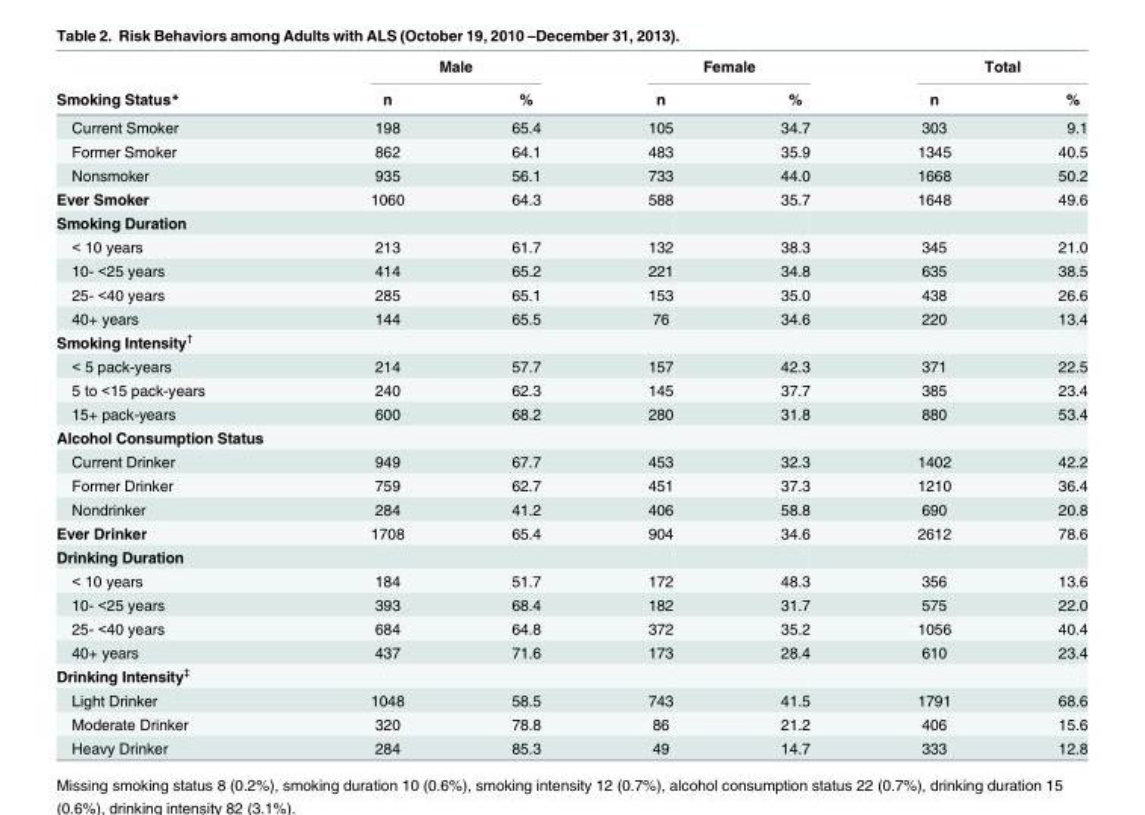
<table><thead><tr><td rowspan="2">Smoking Status*</td><td colspan="2">Male</td><td colspan="2">Female</td><td colspan="2">Total</td></tr><tr><td>n</td><td>%</td><td>n</td><td>%</td><td>n</td><td>%</td></tr></thead><tbody><tr><td>Current Smoker</td><td>198</td><td>65.4</td><td>105</td><td>34.7</td><td>303</td><td>9.1</td></tr><tr><td>Former Smoker</td><td>862</td><td>64.1</td><td>483</td><td>35.9</td><td>1345</td><td>40.5</td></tr><tr><td>Nonsmoker</td><td>935</td><td>56.1</td><td>733</td><td>44.0</td><td>1668</td><td>50.2</td></tr><tr><td>Ever Smoker</td><td>1060</td><td>64.3</td><td>588</td><td>35.7</td><td>1648</td><td>49.6</td></tr><tr><td colspan="7">Smoking Duration</td></tr><tr><td>&lt; 10 years</td><td>213</td><td>61.7</td><td>132</td><td>38.3</td><td>345</td><td>21.0</td></tr><tr><td>10- &lt;25 years</td><td>414</td><td>65.2</td><td>221</td><td>34.8</td><td>635</td><td>38.5</td></tr><tr><td>25- &lt;40 years</td><td>285</td><td>65.1</td><td>153</td><td>35.0</td><td>438</td><td>26.6</td></tr><tr><td>40+ years</td><td>144</td><td>65.5</td><td>76</td><td>34.6</td><td>220</td><td>13.4</td></tr><tr><td colspan="7">Smoking Intensity<sup>†</sup></td></tr><tr><td>&lt; 5 pack-years</td><td>214</td><td>57.7</td><td>157</td><td>42.3</td><td>371</td><td>22.5</td></tr><tr><td>5 to &lt;15 pack-years</td><td>240</td><td>62.3</td><td>145</td><td>37.7</td><td>385</td><td>23.4</td></tr><tr><td>15+ pack-years</td><td>600</td><td>68.2</td><td>280</td><td>31.8</td><td>880</td><td>53.4</td></tr><tr><td colspan="7">Alcohol Consumption Status</td></tr><tr><td>Current Drinker</td><td>949</td><td>67.7</td><td>453</td><td>32.3</td><td>1402</td><td>42.2</td></tr><tr><td>Former Drinker</td><td>759</td><td>62.7</td><td>451</td><td>37.3</td><td>1210</td><td>36.4</td></tr><tr><td>Nondrinker</td><td>284</td><td>41.2</td><td>406</td><td>58.8</td><td>690</td><td>20.8</td></tr><tr><td>Ever Drinker</td><td>1708</td><td>65.4</td><td>904</td><td>34.6</td><td>2612</td><td>78.6</td></tr><tr><td colspan="7">Drinking Duration</td></tr><tr><td>&lt; 10 years</td><td>184</td><td>51.7</td><td>172</td><td>48.3</td><td>356</td><td>13.6</td></tr><tr><td>10- &lt;25 years</td><td>393</td><td>68.4</td><td>182</td><td>31.7</td><td>575</td><td>22.0</td></tr><tr><td>25- &lt;40 years</td><td>684</td><td>64.8</td><td>372</td><td>35.2</td><td>1056</td><td>40.4</td></tr><tr><td>40+ years</td><td>437</td><td>71.6</td><td>173</td><td>28.4</td><td>610</td><td>23.4</td></tr><tr><td colspan="7">Drinking Intensity<sup>‡</sup></td></tr><tr><td>Light Drinker</td><td>1048</td><td>58.5</td><td>743</td><td>41.5</td><td>1791</td><td>68.6</td></tr><tr><td>Moderate Drinker</td><td>320</td><td>78.8</td><td>86</td><td>21.2</td><td>406</td><td>15.6</td></tr><tr><td>Heavy Drinker</td><td>284</td><td>85.3</td><td>49</td><td>14.7</td><td>333</td><td>12.8</td></tr></tbody></table>